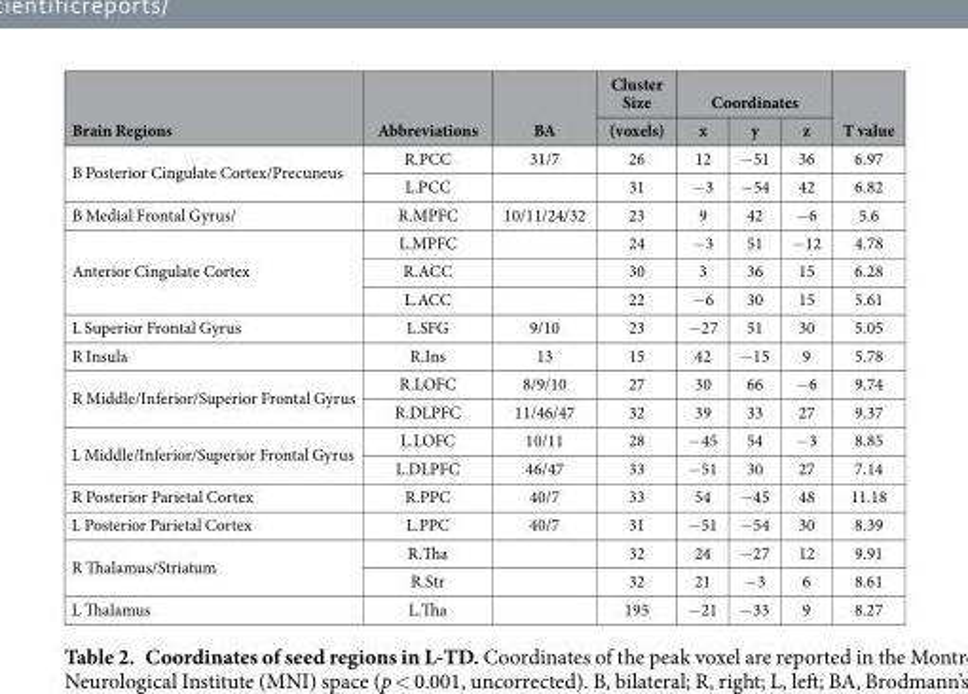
<table><thead><tr><td rowspan="2">Brain Regions</td><td rowspan="2">Abbreviations</td><td rowspan="2">BA</td><td rowspan="2">Cluster Size (voxels)</td><td colspan="3">Coordinates</td><td rowspan="2">T value</td></tr><tr><td>x</td><td>y</td><td>z</td></tr></thead><tbody><tr><td rowspan="2">B Posterior Cingulate Cortex/Precuneus</td><td>R.PCC</td><td>31/7</td><td>26</td><td>12</td><td>− 51</td><td>36</td><td>6.97</td></tr><tr><td>L.PCC</td><td></td><td>31</td><td>− 3</td><td>− 54</td><td>42</td><td>6.82</td></tr><tr><td>B Medial Frontal Gyrus/</td><td>R.MPFC</td><td>10/11/24/32</td><td>23</td><td>9</td><td>42</td><td>− 6</td><td>5.6</td></tr><tr><td rowspan="3">Anterior Cingulate Cortex</td><td>L.MPFC</td><td></td><td>24</td><td>− 3</td><td>51</td><td>− 12</td><td>4.78</td></tr><tr><td>R.ACC</td><td></td><td>30</td><td>3</td><td>36</td><td>15</td><td>6.28</td></tr><tr><td>L.ACC</td><td></td><td>22</td><td>− 6</td><td>30</td><td>15</td><td>5.61</td></tr><tr><td>L Superior Frontal Gyrus</td><td>L.SFG</td><td>9/10</td><td>23</td><td>− 27</td><td>51</td><td>30</td><td>5.05</td></tr><tr><td>R Insula</td><td>R.Ins</td><td>13</td><td>15</td><td>42</td><td>− 15</td><td>9</td><td>5.78</td></tr><tr><td rowspan="2">R Middle/Inferior/Superior Frontal Gyrus</td><td>R.LOFC</td><td>8/9/10</td><td>27</td><td>30</td><td>66</td><td>− 6</td><td>9.74</td></tr><tr><td>R.DLPFC</td><td>11/46/47</td><td>32</td><td>39</td><td>33</td><td>27</td><td>9.37</td></tr><tr><td rowspan="2">L Middle/Inferior/Superior Frontal Gyrus</td><td>L.LOFC</td><td>10/11</td><td>28</td><td>− 45</td><td>54</td><td>− 3</td><td>8.85</td></tr><tr><td>L.DLPFC</td><td>46/47</td><td>33</td><td>− 51</td><td>30</td><td>27</td><td>7.14</td></tr><tr><td>R Posterior Parietal Cortex</td><td>R.PPC</td><td>40/7</td><td>33</td><td>54</td><td>− 45</td><td>48</td><td>11.18</td></tr><tr><td>L Posterior Parietal Cortex</td><td>L.PPC</td><td>40/7</td><td>31</td><td>− 51</td><td>− 54</td><td>30</td><td>8.39</td></tr><tr><td rowspan="2">R Thalamus/Striatum</td><td>R.Tha</td><td></td><td>32</td><td>24</td><td>− 27</td><td>12</td><td>9.91</td></tr><tr><td>R.Str</td><td></td><td>32</td><td>21</td><td>− 3</td><td>6</td><td>8.61</td></tr><tr><td>L Thalamus</td><td>L.Tha</td><td></td><td>195</td><td>− 21</td><td>− 33</td><td>9</td><td>8.27</td></tr></tbody></table>